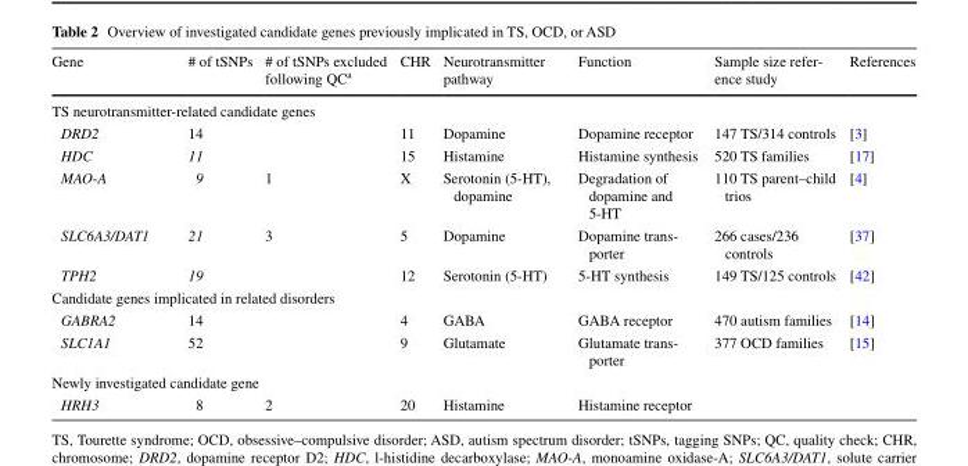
<table><thead><tr><td>Gene</td><td># of tSNPs</td><td># of tSNPs excluded following QC<sup>a</sup></td><td>CHR</td><td>Neurotransmitter pathway</td><td>Function</td><td>Sample size refer- ence study</td><td>References</td></tr></thead><tbody><tr><td colspan="8">TS neurotransmitter-related candidate genes</td></tr><tr><td>DRD2</td><td>14</td><td></td><td>11</td><td>Dopamine</td><td>Dopamine receptor</td><td>147 TS/314 controls</td><td>[3]</td></tr><tr><td>HDC</td><td>11</td><td></td><td>15</td><td>Histamine</td><td>Histamine synthesis</td><td>520 TS families</td><td>[17]</td></tr><tr><td>MAO-A</td><td>9</td><td>1</td><td>X</td><td>Serotonin (5-HT), dopamine</td><td>Degradation of dopamine and 5-HT</td><td>110 TS parent–child trios</td><td>[4]</td></tr><tr><td>SLC6A3/DAT1</td><td>21</td><td>3</td><td>5</td><td>Dopamine</td><td>Dopamine trans- porter</td><td>266 cases/236 controls</td><td>[37]</td></tr><tr><td>TPH2</td><td>19</td><td></td><td>12</td><td>Serotonin (5-HT)</td><td>5-HT synthesis</td><td>149 TS/125 controls</td><td>[42]</td></tr><tr><td colspan="8">Candidate genes implicated in related disorders</td></tr><tr><td>GABRA2</td><td>14</td><td></td><td>4</td><td>GABA</td><td>GABA receptor</td><td>470 autism families</td><td>[14]</td></tr><tr><td>SLC1A1</td><td>52</td><td></td><td>9</td><td>Glutamate</td><td>Glutamate trans- porter</td><td>377 OCD families</td><td>[15]</td></tr><tr><td colspan="8">Newly investigated candidate gene</td></tr><tr><td>HRH3</td><td>8</td><td>2</td><td>20</td><td>Histamine</td><td>Histamine receptor</td><td></td><td></td></tr></tbody></table>